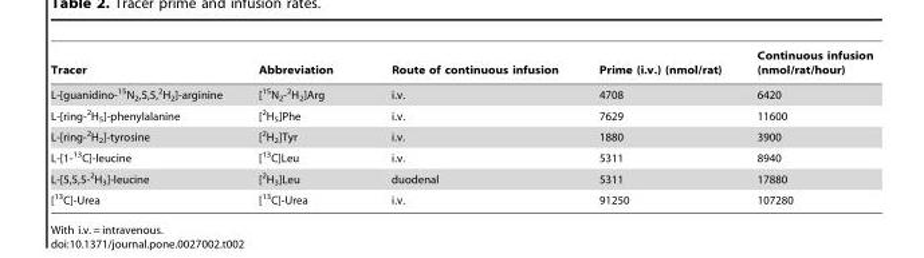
<table><thead><tr><td>Tracer</td><td>Abbreviation</td><td>Route of continuous infusion</td><td>Prime (i.v.) (nmol/rat)</td><td>Continuous infusion (nmol/rat/hour)</td></tr></thead><tbody><tr><td>L-[guanidino-<sup>15</sup>N<sub>2</sub>,5,5,<sup>2</sup>H<sub>2</sub>]-arginine</td><td>[<sup>15</sup>N<sub>2</sub>-<sup>2</sup>H<sub>2</sub>]Arg</td><td>i.v.</td><td>4708</td><td>6420</td></tr><tr><td>L-[ring-<sup>2</sup>H<sub>5</sub>]-phenylalanine</td><td>[<sup>2</sup>H<sub>5</sub>]Phe</td><td>i.v.</td><td>7629</td><td>11600</td></tr><tr><td>L-[ring-<sup>2</sup>H<sub>2</sub>]-tyrosine</td><td>[<sup>2</sup>H<sub>2</sub>]Tyr</td><td>i.v.</td><td>1880</td><td>3900</td></tr><tr><td>L-[1-<sup>13</sup>C]-leucine</td><td>[<sup>13</sup>C]Leu</td><td>i.v.</td><td>5311</td><td>8940</td></tr><tr><td>L-[5,5,5-<sup>2</sup>H<sub>3</sub>]-leucine</td><td>[<sup>2</sup>H<sub>3</sub>]Leu</td><td>duodenal</td><td>5311</td><td>17880</td></tr><tr><td>[<sup>13</sup>C]-Urea</td><td>[<sup>13</sup>C]-Urea</td><td>i.v.</td><td>91250</td><td>107280</td></tr></tbody></table>